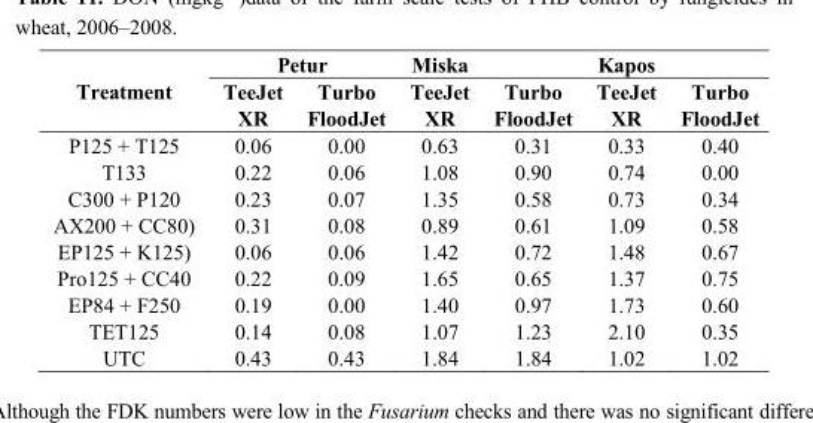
<table><thead><tr><td rowspan="2">Treatment</td><td colspan="2">Petur</td><td rowspan="2">Miska TeeJet XR</td><td rowspan="2">Turbo FloodJet</td><td rowspan="2">Kapos TeeJet XR</td><td rowspan="2">Turbo FloodJet</td></tr><tr><td>TeeJet XR</td><td>Turbo FloodJet</td></tr></thead><tbody><tr><td>P125 + T125</td><td>0.06</td><td>0.00</td><td>0.63</td><td>0.31</td><td>0.33</td><td>0.40</td></tr><tr><td>T133</td><td>0.22</td><td>0.06</td><td>1.08</td><td>0.90</td><td>0.74</td><td>0.00</td></tr><tr><td>C300 + P120</td><td>0.23</td><td>0.07</td><td>1.35</td><td>0.58</td><td>0.73</td><td>0.34</td></tr><tr><td>AX200 + CC80)</td><td>0.31</td><td>0.08</td><td>0.89</td><td>0.61</td><td>1.09</td><td>0.58</td></tr><tr><td>EP125 + K125)</td><td>0.06</td><td>0.06</td><td>1.42</td><td>0.72</td><td>1.48</td><td>0.67</td></tr><tr><td>Pro125 + CC40</td><td>0.22</td><td>0.09</td><td>1.65</td><td>0.65</td><td>1.37</td><td>0.75</td></tr><tr><td>EP84 + F250</td><td>0.19</td><td>0.00</td><td>1.40</td><td>0.97</td><td>1.73</td><td>0.60</td></tr><tr><td>TET125</td><td>0.14</td><td>0.08</td><td>1.07</td><td>1.23</td><td>2.10</td><td>0.35</td></tr><tr><td>UTC</td><td>0.43</td><td>0.43</td><td>1.84</td><td>1.84</td><td>1.02</td><td>1.02</td></tr></tbody></table>